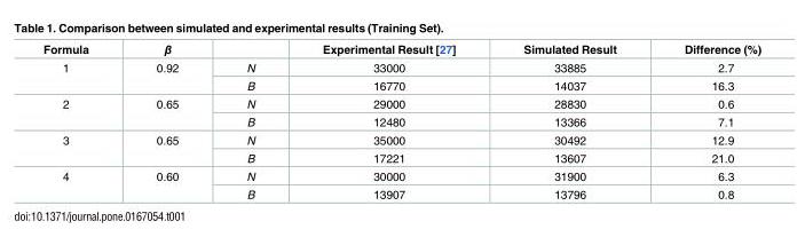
<table><thead><tr><td>Formula</td><td>β</td><td></td><td>Experimental Result [27]</td><td>Simulated Result</td><td>Difference (%)</td></tr></thead><tbody><tr><td rowspan="2">1</td><td rowspan="2">0.92</td><td>N</td><td>33000</td><td>33885</td><td>2.7</td></tr><tr><td>B</td><td>16770</td><td>14037</td><td>16.3</td></tr><tr><td rowspan="2">2</td><td rowspan="2">0.65</td><td>N</td><td>29000</td><td>28830</td><td>0.6</td></tr><tr><td>B</td><td>12480</td><td>13366</td><td>7.1</td></tr><tr><td rowspan="2">3</td><td rowspan="2">0.65</td><td>N</td><td>35000</td><td>30492</td><td>12.9</td></tr><tr><td>B</td><td>17221</td><td>13607</td><td>21.0</td></tr><tr><td rowspan="2">4</td><td rowspan="2">0.60</td><td>N</td><td>30000</td><td>31900</td><td>6.3</td></tr><tr><td>B</td><td>13907</td><td>13796</td><td>0.8</td></tr></tbody></table>